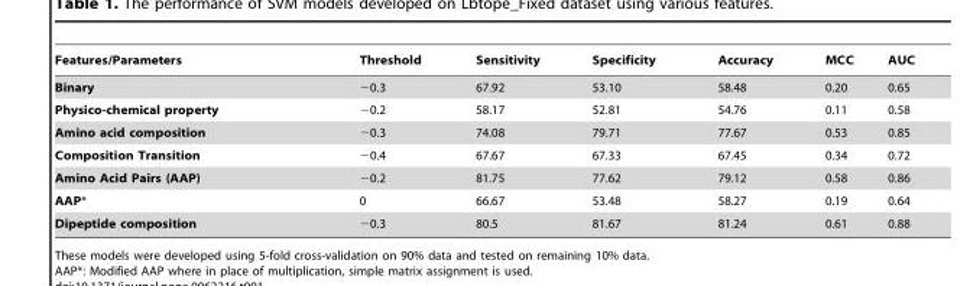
<table><thead><tr><td>Features/Parameters</td><td>Threshold</td><td>Sensitivity</td><td>Specificity</td><td>Accuracy</td><td>MCC</td><td>AUC</td></tr></thead><tbody><tr><td>Binary</td><td>−0.3</td><td>67.92</td><td>53.10</td><td>58.48</td><td>0.20</td><td>0.65</td></tr><tr><td>Physico-chemical property</td><td>−0.2</td><td>58.17</td><td>52.81</td><td>54.76</td><td>0.11</td><td>0.58</td></tr><tr><td>Amino acid composition</td><td>−0.3</td><td>74.08</td><td>79.71</td><td>77.67</td><td>0.53</td><td>0.85</td></tr><tr><td>Composition Transition</td><td>−0.4</td><td>67.67</td><td>67.33</td><td>67.45</td><td>0.34</td><td>0.72</td></tr><tr><td>Amino Acid Pairs (AAP)</td><td>−0.2</td><td>81.75</td><td>77.62</td><td>79.12</td><td>0.58</td><td>0.86</td></tr><tr><td>AAP*</td><td>0</td><td>66.67</td><td>53.48</td><td>58.27</td><td>0.19</td><td>0.64</td></tr><tr><td>Dipeptide composition</td><td>−0.3</td><td>80.5</td><td>81.67</td><td>81.24</td><td>0.61</td><td>0.88</td></tr></tbody></table>